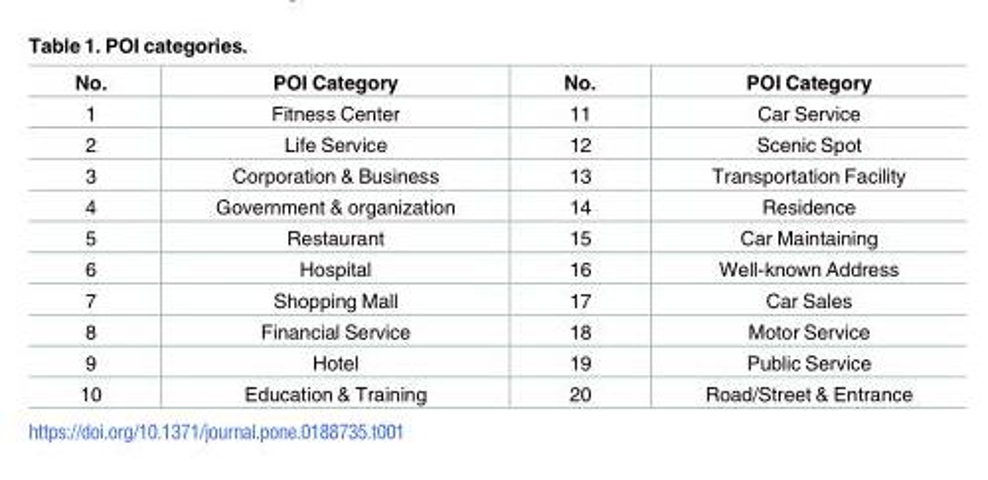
<table><thead><tr><td>No.</td><td>POI Category</td><td>No.</td><td>POI Category</td></tr></thead><tbody><tr><td>1</td><td>Fitness Center</td><td>11</td><td>Car Service</td></tr><tr><td>2</td><td>Life Service</td><td>12</td><td>Scenic Spot</td></tr><tr><td>3</td><td>Corporation &amp; Business</td><td>13</td><td>Transportation Facility</td></tr><tr><td>4</td><td>Government &amp; organization</td><td>14</td><td>Residence</td></tr><tr><td>5</td><td>Restaurant</td><td>15</td><td>Car Maintaining</td></tr><tr><td>6</td><td>Hospital</td><td>16</td><td>Well-known Address</td></tr><tr><td>7</td><td>Shopping Mall</td><td>17</td><td>Car Sales</td></tr><tr><td>8</td><td>Financial Service</td><td>18</td><td>Motor Service</td></tr><tr><td>9</td><td>Hotel</td><td>19</td><td>Public Service</td></tr><tr><td>10</td><td>Education &amp; Training</td><td>20</td><td>Road/Street &amp; Entrance</td></tr></tbody></table>